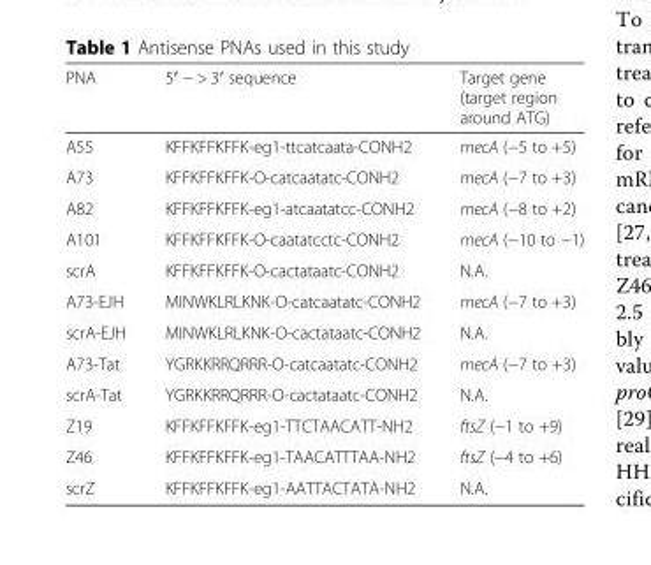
<table><thead><tr><td>PNA</td><td>5′ − &gt; 3′ sequence</td><td>Target gene (target region around ATG)</td></tr></thead><tbody><tr><td>A55</td><td>KFFKFFKFFK-eg1-ttcatcaata-CONH2</td><td>mecA (−5 to +5)</td></tr><tr><td>A73</td><td>KFFKFFKFFK-O-catcaatatc-CONH2</td><td>mecA (−7 to +3)</td></tr><tr><td>A82</td><td>KFFKFFKFFK-eg1-atcaatatcc-CONH2</td><td>mecA (−8 to +2)</td></tr><tr><td>A101</td><td>KFFKFFKFFK-O-caatatcctc-CONH2</td><td>mecA (−10 to −1)</td></tr><tr><td>scrA</td><td>KFFKFFKFFK-O-cactataatc-CONH2</td><td>N.A.</td></tr><tr><td>A73-EJH</td><td>MINWKLRLKNK-O-catcaatatc-CONH2</td><td>mecA (−7 to +3)</td></tr><tr><td>scrA-EJH</td><td>MINWKLRLKNK-O-cactataatc-CONH2</td><td>N.A.</td></tr><tr><td>A73-Tat</td><td>YGRKKRRQRRR-O-catcaatatc-CONH2</td><td>mecA (−7 to +3)</td></tr><tr><td>scrA-Tat</td><td>YGRKKRRQRRR-O-cactataatc-CONH2</td><td>N.A.</td></tr><tr><td>Z19</td><td>KFFKFFKFFK-eg1-TTCTAACATT-NH2</td><td>ftsZ (−1 to +9)</td></tr><tr><td>Z46</td><td>KFFKFFKFFK-eg1-TAACATTTAA-NH2</td><td>ftsZ (−4 to +6)</td></tr><tr><td>scrZ</td><td>KFFKFFKFFK-eg1-AATTACTATA-NH2</td><td>N.A.</td></tr></tbody></table>